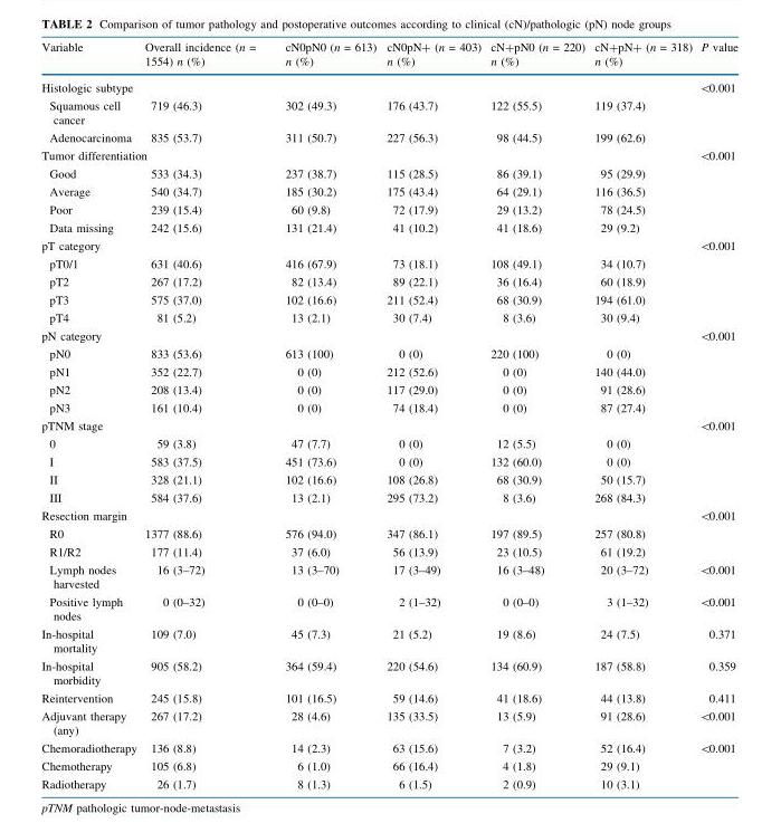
<table><thead><tr><td>Variable</td><td>Overall incidence (n = 1554) n (%)</td><td>cN0pN0 (n = 613) n (%)</td><td>cN0pN+ (n = 403) n (%)</td><td>cN+pN0 (n = 220) n (%)</td><td>cN+pN+ (n = 318) n (%)</td><td>P value</td></tr></thead><tbody><tr><td>Histologic subtype</td><td></td><td></td><td></td><td></td><td></td><td>&lt;0.001</td></tr><tr><td>Squamous cell cancer</td><td>719 (46.3)</td><td>302 (49.3)</td><td>176 (43.7)</td><td>122 (55.5)</td><td>119 (37.4)</td><td></td></tr><tr><td>Adenocarcinoma</td><td>835 (53.7)</td><td>311 (50.7)</td><td>227 (56.3)</td><td>98 (44.5)</td><td>199 (62.6)</td><td></td></tr><tr><td colspan="6">Tumor differentiation</td><td>&lt;0.001</td></tr><tr><td>Good</td><td>533 (34.3)</td><td>237 (38.7)</td><td>115 (28.5)</td><td>86 (39.1)</td><td>95 (29.9)</td><td></td></tr><tr><td>Average</td><td>540 (34.7)</td><td>185 (30.2)</td><td>175 (43.4)</td><td>64 (29.1)</td><td>116 (36.5)</td><td></td></tr><tr><td>Poor</td><td>239 (15.4)</td><td>60 (9.8)</td><td>72 (17.9)</td><td>29 (13.2)</td><td>78 (24.5)</td><td></td></tr><tr><td>Data missing</td><td>242 (15.6)</td><td>131 (21.4)</td><td>41 (10.2)</td><td>41 (18.6)</td><td>29 (9.2)</td><td></td></tr><tr><td colspan="6">pT category</td><td>&lt;0.001</td></tr><tr><td>pT0/1</td><td>631 (40.6)</td><td>416 (67.9)</td><td>73 (18.1)</td><td>108 (49.1)</td><td>34 (10.7)</td><td></td></tr><tr><td>pT2</td><td>267 (17.2)</td><td>82 (13.4)</td><td>89 (22.1)</td><td>36 (16.4)</td><td>60 (18.9)</td><td></td></tr><tr><td>pT3</td><td>575 (37.0)</td><td>102 (16.6)</td><td>211 (52.4)</td><td>68 (30.9)</td><td>194 (61.0)</td><td></td></tr><tr><td>pT4</td><td>81 (5.2)</td><td>13 (2.1)</td><td>30 (7.4)</td><td>8 (3.6)</td><td>30 (9.4)</td><td></td></tr><tr><td colspan="6">pN category</td><td>&lt;0.001</td></tr><tr><td>pN0</td><td>833 (53.6)</td><td>613 (100)</td><td>0 (0)</td><td>220 (100)</td><td>0 (0)</td><td></td></tr><tr><td>pN1</td><td>352 (22.7)</td><td>0 (0)</td><td>212 (52.6)</td><td>0 (0)</td><td>140 (44.0)</td><td></td></tr><tr><td>pN2</td><td>208 (13.4)</td><td>0 (0)</td><td>117 (29.0)</td><td>0 (0)</td><td>91 (28.6)</td><td></td></tr><tr><td>pN3</td><td>161 (10.4)</td><td>0 (0)</td><td>74 (18.4)</td><td>0 (0)</td><td>87 (27.4)</td><td></td></tr><tr><td>pTNM stage</td><td></td><td></td><td></td><td></td><td></td><td>&lt;0.001</td></tr><tr><td>0</td><td>59 (3.8)</td><td>47 (7.7)</td><td>0 (0)</td><td>12 (5.5)</td><td>0 (0)</td><td></td></tr><tr><td>I</td><td>583 (37.5)</td><td>451 (73.6)</td><td>0 (0)</td><td>132 (60.0)</td><td>0 (0)</td><td></td></tr><tr><td>II</td><td>328 (21.1)</td><td>102 (16.6)</td><td>108 (26.8)</td><td>68 (30.9)</td><td>50 (15.7)</td><td></td></tr><tr><td>III</td><td>584 (37.6)</td><td>13 (2.1)</td><td>295 (73.2)</td><td>8 (3.6)</td><td>268 (84.3)</td><td></td></tr><tr><td colspan="6">Resection margin</td><td>&lt;0.001</td></tr><tr><td>R0</td><td>1377 (88.6)</td><td>576 (94.0)</td><td>347 (86.1)</td><td>197 (89.5)</td><td>257 (80.8)</td><td></td></tr><tr><td>R1/R2</td><td>177 (11.4)</td><td>37 (6.0)</td><td>56 (13.9)</td><td>23 (10.5)</td><td>61 (19.2)</td><td></td></tr><tr><td>Lymph nodes harvested</td><td>16 (3–72)</td><td>13 (3–70)</td><td>17 (3–49)</td><td>16 (3–48)</td><td>20 (3–72)</td><td>&lt;0.001</td></tr><tr><td>Positive lymph nodes</td><td>0 (0–32)</td><td>0 (0–0)</td><td>2 (1–32)</td><td>0 (0–0)</td><td>3 (1–32)</td><td>&lt;0.001</td></tr><tr><td>In-hospital mortality</td><td>109 (7.0)</td><td>45 (7.3)</td><td>21 (5.2)</td><td>19 (8.6)</td><td>24 (7.5)</td><td>0.371</td></tr><tr><td>In-hospital morbidity</td><td>905 (58.2)</td><td>364 (59.4)</td><td>220 (54.6)</td><td>134 (60.9)</td><td>187 (58.8)</td><td>0.359</td></tr><tr><td>Reintervention</td><td>245 (15.8)</td><td>101 (16.5)</td><td>59 (14.6)</td><td>41 (18.6)</td><td>44 (13.8)</td><td>0.411</td></tr><tr><td>Adjuvant therapy (any)</td><td>267 (17.2)</td><td>28 (4.6)</td><td>135 (33.5)</td><td>13 (5.9)</td><td>91 (28.6)</td><td>&lt;0.001</td></tr><tr><td>Chemoradiotherapy</td><td>136 (8.8)</td><td>14 (2.3)</td><td>63 (15.6)</td><td>7 (3.2)</td><td>52 (16.4)</td><td>&lt;0.001</td></tr><tr><td>Chemotherapy</td><td>105 (6.8)</td><td>6 (1.0)</td><td>66 (16.4)</td><td>4 (1.8)</td><td>29 (9.1)</td><td></td></tr><tr><td>Radiotherapy</td><td>26 (1.7)</td><td>8 (1.3)</td><td>6 (1.5)</td><td>2 (0.9)</td><td>10 (3.1)</td><td></td></tr></tbody></table>